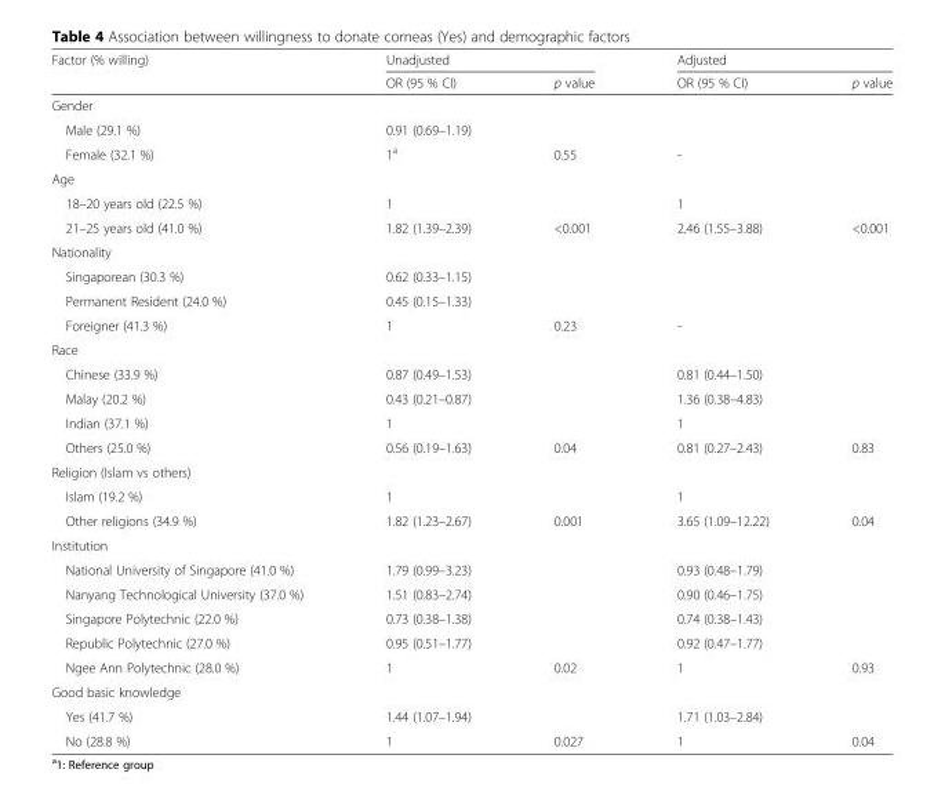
<table><thead><tr><td rowspan="2">Factor (% willing)</td><td colspan="2">Unadjusted</td><td colspan="2">Adjusted</td></tr><tr><td>OR (95 % CI)</td><td>p value</td><td>OR (95 % CI)</td><td>p value</td></tr></thead><tbody><tr><td colspan="5">Gender</td></tr><tr><td>Male (29.1 %)</td><td>0.91 (0.69–1.19)</td><td></td><td></td><td></td></tr><tr><td>Female (32.1 %)</td><td>1<sup>a</sup></td><td>0.55</td><td>-</td><td></td></tr><tr><td colspan="5">Age</td></tr><tr><td>18–20 years old (22.5 %)</td><td>1</td><td></td><td>1</td><td></td></tr><tr><td>21–25 years old (41.0 %)</td><td>1.82 (1.39–2.39)</td><td>&lt;0.001</td><td>2.46 (1.55–3.88)</td><td>&lt;0.001</td></tr><tr><td colspan="5">Nationality</td></tr><tr><td>Singaporean (30.3 %)</td><td>0.62 (0.33–1.15)</td><td></td><td></td><td></td></tr><tr><td>Permanent Resident (24.0 %)</td><td>0.45 (0.15–1.33)</td><td></td><td></td><td></td></tr><tr><td>Foreigner (41.3 %)</td><td>1</td><td>0.23</td><td>-</td><td></td></tr><tr><td colspan="5">Race</td></tr><tr><td>Chinese (33.9 %)</td><td>0.87 (0.49–1.53)</td><td></td><td>0.81 (0.44–1.50)</td><td></td></tr><tr><td>Malay (20.2 %)</td><td>0.43 (0.21–0.87)</td><td></td><td>1.36 (0.38–4.83)</td><td></td></tr><tr><td>Indian (37.1 %)</td><td>1</td><td></td><td>1</td><td></td></tr><tr><td>Others (25.0 %)</td><td>0.56 (0.19–1.63)</td><td>0.04</td><td>0.81 (0.27–2.43)</td><td>0.83</td></tr><tr><td colspan="5">Religion (Islam vs others)</td></tr><tr><td>Islam (19.2 %)</td><td>1</td><td></td><td>1</td><td></td></tr><tr><td>Other religions (34.9 %)</td><td>1.82 (1.23–2.67)</td><td>0.001</td><td>3.65 (1.09–12.22)</td><td>0.04</td></tr><tr><td colspan="5">Institution</td></tr><tr><td>National University of Singapore (41.0 %)</td><td>1.79 (0.99–3.23)</td><td></td><td>0.93 (0.48–1.79)</td><td></td></tr><tr><td>Nanyang Technological University (37.0 %)</td><td>1.51 (0.83–2.74)</td><td></td><td>0.90 (0.46–1.75)</td><td></td></tr><tr><td>Singapore Polytechnic (22.0 %)</td><td>0.73 (0.38–1.38)</td><td></td><td>0.74 (0.38–1.43)</td><td></td></tr><tr><td>Republic Polytechnic (27.0 %)</td><td>0.95 (0.51–1.77)</td><td></td><td>0.92 (0.47–1.77)</td><td></td></tr><tr><td>Ngee Ann Polytechnic (28.0 %)</td><td>1</td><td>0.02</td><td>1</td><td>0.93</td></tr><tr><td colspan="5">Good basic knowledge</td></tr><tr><td>Yes (41.7 %)</td><td>1.44 (1.07–1.94)</td><td></td><td>1.71 (1.03–2.84)</td><td></td></tr><tr><td>No (28.8 %)</td><td>1</td><td>0.027</td><td>1</td><td>0.04</td></tr></tbody></table>